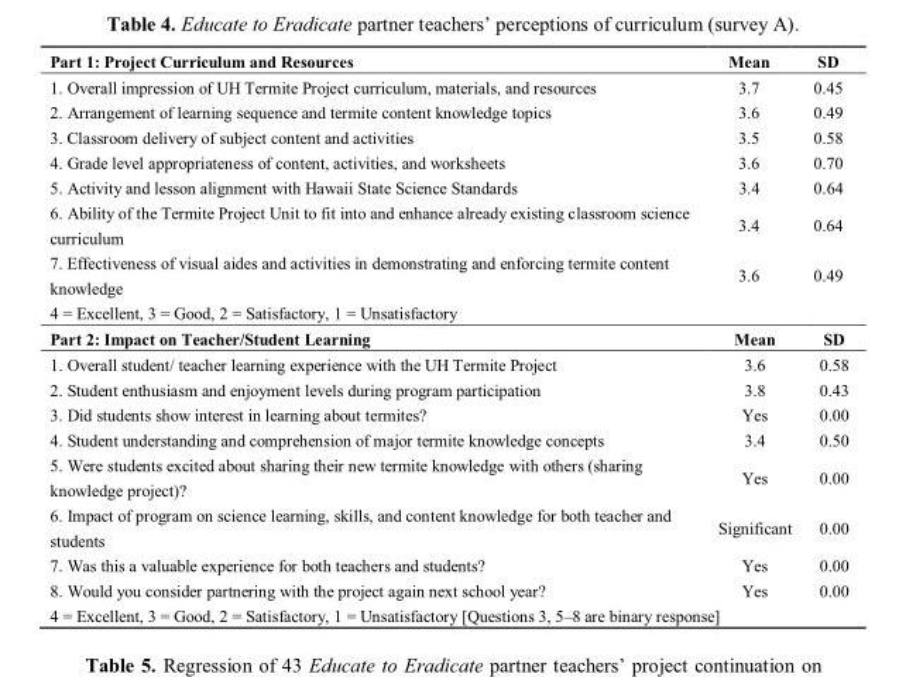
<table><tbody><tr><td>Part 1: Project Curriculum and Resources</td><td>Mean</td><td>SD</td></tr><tr><td>1. Overall impression of UH Termite Project curriculum, materials, and resources</td><td>3.7</td><td>0.45</td></tr><tr><td>2. Arrangement of learning sequence and termite content knowledge topics</td><td>3.6</td><td>0.49</td></tr><tr><td>3. Classroom delivery of subject content and activities</td><td>3.5</td><td>0.58</td></tr><tr><td>4. Grade level appropriateness of content, activities, and worksheets</td><td>3.6</td><td>0.70</td></tr><tr><td>5. Activity and lesson alignment with Hawaii State Science Standards</td><td>3.4</td><td>0.64</td></tr><tr><td>6. Ability of the Termite Project Unit to fit into and enhance already existing classroom science curriculum</td><td>3.4</td><td>0.64</td></tr><tr><td>7. Effectiveness of visual aides and activities in demonstrating and enforcing termite content knowledge</td><td>3.6</td><td>0.49</td></tr><tr><td colspan="3">4 = Excellent, 3 = Good, 2 = Satisfactory, 1 = Unsatisfactory</td></tr><tr><td>Part 2: Impact on Teacher/Student Learning</td><td>Mean</td><td>SD</td></tr><tr><td>1. Overall student/ teacher learning experience with the UH Termite Project</td><td>3.6</td><td>0.58</td></tr><tr><td>2. Student enthusiasm and enjoyment levels during program participation</td><td>3.8</td><td>0.43</td></tr><tr><td>3. Did students show interest in learning about termites?</td><td>Yes</td><td>0.00</td></tr><tr><td>4. Student understanding and comprehension of major termite knowledge concepts</td><td>3.4</td><td>0.50</td></tr><tr><td>5. Were students excited about sharing their new termite knowledge with others (sharing knowledge project)?</td><td>Yes</td><td>0.00</td></tr><tr><td>6. Impact of program on science learning, skills, and content knowledge for both teacher and students</td><td>Significant</td><td>0.00</td></tr><tr><td>7. Was this a valuable experience for both teachers and students?</td><td>Yes</td><td>0.00</td></tr><tr><td>8. Would you consider partnering with the project again next school year?</td><td>Yes</td><td>0.00</td></tr><tr><td colspan="3">4 = Excellent, 3 = Good, 2 = Satisfactory, 1 = Unsatisfactory [Questions 3, 5–8 are binary response]</td></tr></tbody></table>